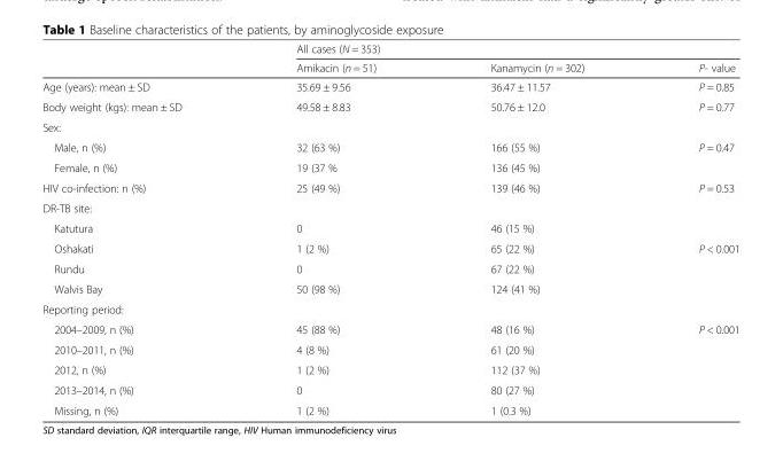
<table><thead><tr><td rowspan="2"></td><td colspan="3">All cases (N = 353)</td></tr><tr><td>Amikacin (n = 51)</td><td>Kanamycin (n = 302)</td><td>P- value</td></tr></thead><tbody><tr><td>Age (years): mean ± SD</td><td>35.69 ± 9.56</td><td>36.47 ± 11.57</td><td>P = 0.85</td></tr><tr><td>Body weight (kgs): mean ± SD</td><td>49.58 ± 8.83</td><td>50.76 ± 12.0</td><td>P = 0.77</td></tr><tr><td colspan="4">Sex:</td></tr><tr><td>Male, n (%)</td><td>32 (63 %)</td><td>166 (55 %)</td><td>P = 0.47</td></tr><tr><td>Female, n (%)</td><td>19 (37 %</td><td>136 (45 %)</td><td></td></tr><tr><td>HIV co-infection: n (%)</td><td>25 (49 %)</td><td>139 (46 %)</td><td>P = 0.53</td></tr><tr><td colspan="4">DR-TB site:</td></tr><tr><td>Katutura</td><td>0</td><td>46 (15 %)</td><td></td></tr><tr><td>Oshakati</td><td>1 (2 %)</td><td>65 (22 %)</td><td>P &lt; 0.001</td></tr><tr><td>Rundu</td><td>0</td><td>67 (22 %)</td><td></td></tr><tr><td>Walvis Bay</td><td>50 (98 %)</td><td>124 (41 %)</td><td></td></tr><tr><td colspan="4">Reporting period:</td></tr><tr><td>2004–2009, n (%)</td><td>45 (88 %)</td><td>48 (16 %)</td><td>P &lt; 0.001</td></tr><tr><td>2010–2011, n (%)</td><td>4 (8 %)</td><td>61 (20 %)</td><td></td></tr><tr><td>2012, n (%)</td><td>1 (2 %)</td><td>112 (37 %)</td><td></td></tr><tr><td>2013–2014, n (%)</td><td>0</td><td>80 (27 %)</td><td></td></tr><tr><td>Missing, n (%)</td><td>1 (2 %)</td><td>1 (0.3 %)</td><td></td></tr></tbody></table>